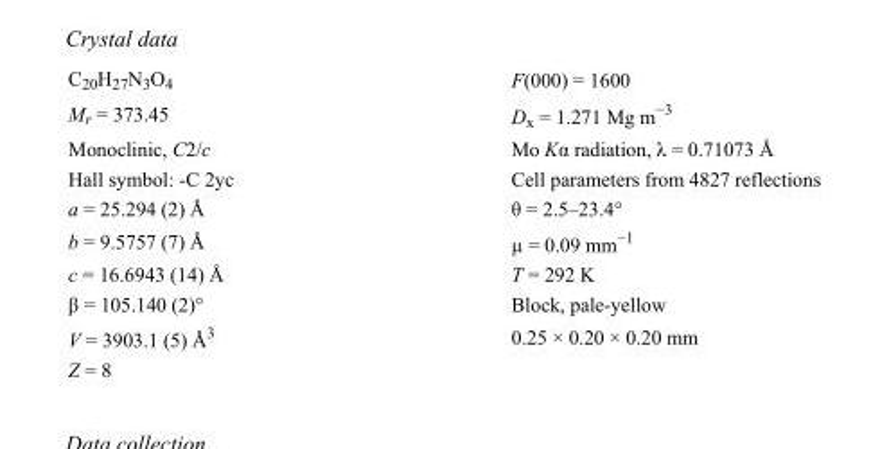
<table><tbody><tr><td>C<sub>20</sub>H<sub>27</sub>N<sub>3</sub>O<sub>4</sub></td><td>F(000) = 1600</td></tr><tr><td>M<sub>r</sub> = 373.45</td><td>D<sub>x</sub> = 1.271 Mg m<sup>−3</sup></td></tr><tr><td>Monoclinic, C2/c</td><td>Mo Kα radiation, λ = 0.71073 Å</td></tr><tr><td>Hall symbol: -C 2yc</td><td>Cell parameters from 4827 reflections</td></tr><tr><td>a = 25.294 (2) Å</td><td>θ = 2.5–23.4°</td></tr><tr><td>b = 9.5757 (7) Å</td><td>µ = 0.09 mm<sup>−1</sup></td></tr><tr><td>c = 16.6943 (14) Å</td><td>T = 292 K</td></tr><tr><td>β = 105.140 (2)°</td><td>Block, pale-yellow</td></tr><tr><td>V = 3903.1 (5) Å<sup>3</sup></td><td>0.25 × 0.20 × 0.20 mm</td></tr><tr><td>Z = 8</td><td></td></tr></tbody></table>